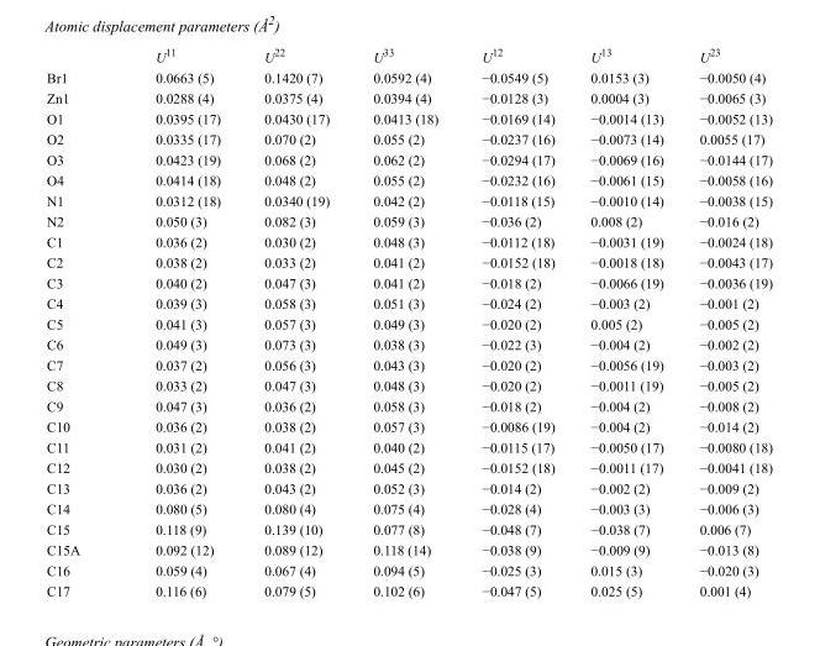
<table><thead><tr><td></td><td>U<sup>11</sup></td><td>U<sup>22</sup></td><td>U<sup>33</sup></td><td>U<sup>12</sup></td><td>U<sup>13</sup></td><td>U<sup>23</sup></td></tr></thead><tbody><tr><td>Br1</td><td>0.0663 (5)</td><td>0.1420 (7)</td><td>0.0592 (4)</td><td>−0.0549 (5)</td><td>0.0153 (3)</td><td>−0.0050 (4)</td></tr><tr><td>Zn1</td><td>0.0288 (4)</td><td>0.0375 (4)</td><td>0.0394 (4)</td><td>−0.0128 (3)</td><td>0.0004 (3)</td><td>−0.0065 (3)</td></tr><tr><td>O1</td><td>0.0395 (17)</td><td>0.0430 (17)</td><td>0.0413 (18)</td><td>−0.0169 (14)</td><td>−0.0014 (13)</td><td>−0.0052 (13)</td></tr><tr><td>O2</td><td>0.0335 (17)</td><td>0.070 (2)</td><td>0.055 (2)</td><td>−0.0237 (16)</td><td>−0.0073 (14)</td><td>0.0055 (17)</td></tr><tr><td>O3</td><td>0.0423 (19)</td><td>0.068 (2)</td><td>0.062 (2)</td><td>−0.0294 (17)</td><td>−0.0069 (16)</td><td>−0.0144 (17)</td></tr><tr><td>O4</td><td>0.0414 (18)</td><td>0.048 (2)</td><td>0.055 (2)</td><td>−0.0232 (16)</td><td>−0.0061 (15)</td><td>−0.0058 (16)</td></tr><tr><td>N1</td><td>0.0312 (18)</td><td>0.0340 (19)</td><td>0.042 (2)</td><td>−0.0118 (15)</td><td>−0.0010 (14)</td><td>−0.0038 (15)</td></tr><tr><td>N2</td><td>0.050 (3)</td><td>0.082 (3)</td><td>0.059 (3)</td><td>−0.036 (2)</td><td>0.008 (2)</td><td>−0.016 (2)</td></tr><tr><td>C1</td><td>0.036 (2)</td><td>0.030 (2)</td><td>0.048 (3)</td><td>−0.0112 (18)</td><td>−0.0031 (19)</td><td>−0.0024 (18)</td></tr><tr><td>C2</td><td>0.038 (2)</td><td>0.033 (2)</td><td>0.041 (2)</td><td>−0.0152 (18)</td><td>−0.0018 (18)</td><td>−0.0043 (17)</td></tr><tr><td>C3</td><td>0.040 (2)</td><td>0.047 (3)</td><td>0.041 (2)</td><td>−0.018 (2)</td><td>−0.0066 (19)</td><td>−0.0036 (19)</td></tr><tr><td>C4</td><td>0.039 (3)</td><td>0.058 (3)</td><td>0.051 (3)</td><td>−0.024 (2)</td><td>−0.003 (2)</td><td>−0.001 (2)</td></tr><tr><td>C5</td><td>0.041 (3)</td><td>0.057 (3)</td><td>0.049 (3)</td><td>−0.020 (2)</td><td>0.005 (2)</td><td>−0.005 (2)</td></tr><tr><td>C6</td><td>0.049 (3)</td><td>0.073 (3)</td><td>0.038 (3)</td><td>−0.022 (3)</td><td>−0.004 (2)</td><td>−0.002 (2)</td></tr><tr><td>C7</td><td>0.037 (2)</td><td>0.056 (3)</td><td>0.043 (3)</td><td>−0.020 (2)</td><td>−0.0056 (19)</td><td>−0.003 (2)</td></tr><tr><td>C8</td><td>0.033 (2)</td><td>0.047 (3)</td><td>0.048 (3)</td><td>−0.020 (2)</td><td>−0.0011 (19)</td><td>−0.005 (2)</td></tr><tr><td>C9</td><td>0.047 (3)</td><td>0.036 (2)</td><td>0.058 (3)</td><td>−0.018 (2)</td><td>−0.004 (2)</td><td>−0.008 (2)</td></tr><tr><td>C10</td><td>0.036 (2)</td><td>0.038 (2)</td><td>0.057 (3)</td><td>−0.0086 (19)</td><td>−0.004 (2)</td><td>−0.014 (2)</td></tr><tr><td>C11</td><td>0.031 (2)</td><td>0.041 (2)</td><td>0.040 (2)</td><td>−0.0115 (17)</td><td>−0.0050 (17)</td><td>−0.0080 (18)</td></tr><tr><td>C12</td><td>0.030 (2)</td><td>0.038 (2)</td><td>0.045 (2)</td><td>−0.0152 (18)</td><td>−0.0011 (17)</td><td>−0.0041 (18)</td></tr><tr><td>C13</td><td>0.036 (2)</td><td>0.043 (2)</td><td>0.052 (3)</td><td>−0.014 (2)</td><td>−0.002 (2)</td><td>−0.009 (2)</td></tr><tr><td>C14</td><td>0.080 (5)</td><td>0.080 (4)</td><td>0.075 (4)</td><td>−0.028 (4)</td><td>−0.003 (3)</td><td>−0.006 (3)</td></tr><tr><td>C15</td><td>0.118 (9)</td><td>0.139 (10)</td><td>0.077 (8)</td><td>−0.048 (7)</td><td>−0.038 (7)</td><td>0.006 (7)</td></tr><tr><td>C15A</td><td>0.092 (12)</td><td>0.089 (12)</td><td>0.118 (14)</td><td>−0.038 (9)</td><td>−0.009 (9)</td><td>−0.013 (8)</td></tr><tr><td>C16</td><td>0.059 (4)</td><td>0.067 (4)</td><td>0.094 (5)</td><td>−0.025 (3)</td><td>0.015 (3)</td><td>−0.020 (3)</td></tr><tr><td>C17</td><td>0.116 (6)</td><td>0.079 (5)</td><td>0.102 (6)</td><td>−0.047 (5)</td><td>0.025 (5)</td><td>0.001 (4)</td></tr></tbody></table>